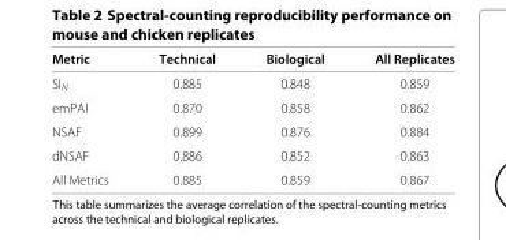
<table><thead><tr><td>Metric</td><td>Technical</td><td>Biological</td><td>All Replicates</td></tr></thead><tbody><tr><td>SI<sub>N</sub></td><td>0.885</td><td>0.848</td><td>0.859</td></tr><tr><td>emPAI</td><td>0.870</td><td>0.858</td><td>0.862</td></tr><tr><td>NSAF</td><td>0.899</td><td>0.876</td><td>0.884</td></tr><tr><td>dNSAF</td><td>0.886</td><td>0.852</td><td>0.863</td></tr><tr><td>All Metrics</td><td>0.885</td><td>0.859</td><td>0.867</td></tr></tbody></table>